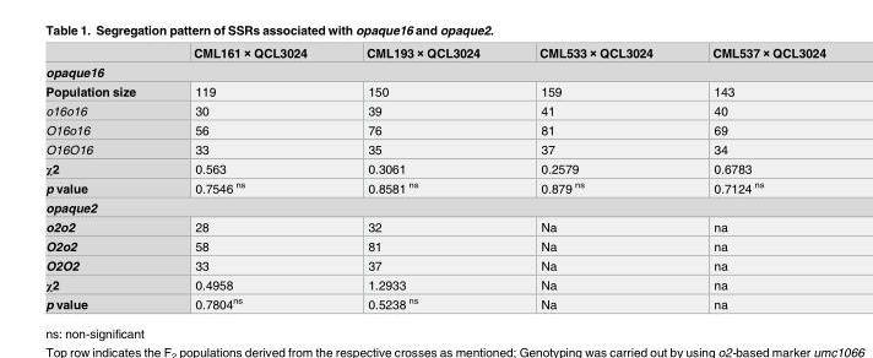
<table><thead><tr><td></td><td>CML161 × QCL3024</td><td>CML193 × QCL3024</td><td>CML533 × QCL3024</td><td>CML537 × QCL3024</td></tr></thead><tbody><tr><td colspan="5">opaque16</td></tr><tr><td>Population size</td><td>119</td><td>150</td><td>159</td><td>143</td></tr><tr><td>o16o16</td><td>30</td><td>39</td><td>41</td><td>40</td></tr><tr><td>O16o16</td><td>56</td><td>76</td><td>81</td><td>69</td></tr><tr><td>O16O16</td><td>33</td><td>35</td><td>37</td><td>34</td></tr><tr><td>χ2</td><td>0.563</td><td>0.3061</td><td>0.2579</td><td>0.6783</td></tr><tr><td>p value</td><td>0.7546 <sup>ns</sup></td><td>0.8581 <sup>ns</sup></td><td>0.879 <sup>ns</sup></td><td>0.7124 <sup>ns</sup></td></tr><tr><td colspan="5">opaque2</td></tr><tr><td>o2o2</td><td>28</td><td>32</td><td>Na</td><td>na</td></tr><tr><td>O2o2</td><td>58</td><td>81</td><td>Na</td><td>na</td></tr><tr><td>O2O2</td><td>33</td><td>37</td><td>Na</td><td>na</td></tr><tr><td>χ2</td><td>0.4958</td><td>1.2933</td><td>Na</td><td>na</td></tr><tr><td>p value</td><td>0.7804<sup>ns</sup></td><td>0.5238 <sup>ns</sup></td><td>Na</td><td>na</td></tr></tbody></table>